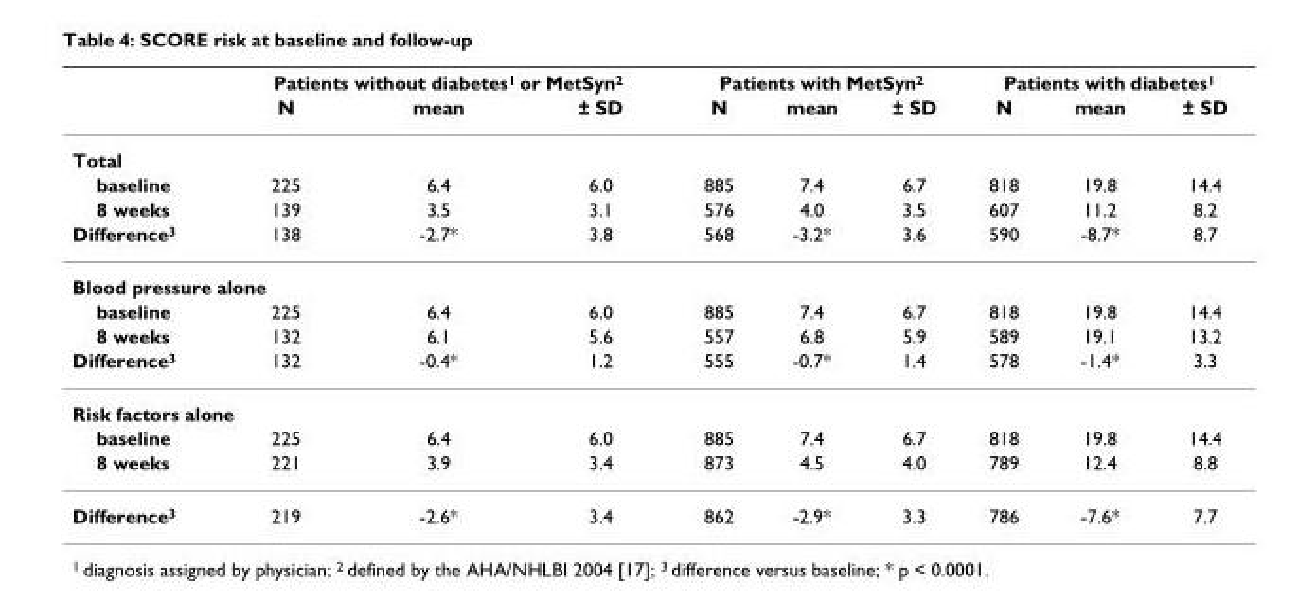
<table><thead><tr><td rowspan="2"></td><td colspan="3">Patients without diabetes<sup>1</sup> or MetSyn<sup>2</sup></td><td colspan="3">Patients with MetSyn<sup>2</sup></td><td colspan="3">Patients with diabetes<sup>1</sup></td></tr><tr><td>N</td><td>mean</td><td>± SD</td><td>N</td><td>mean</td><td>± SD</td><td>N</td><td>mean</td><td>± SD</td></tr></thead><tbody><tr><td colspan="10">Total</td></tr><tr><td>baseline</td><td>225</td><td>6.4</td><td>6.0</td><td>885</td><td>7.4</td><td>6.7</td><td>818</td><td>19.8</td><td>14.4</td></tr><tr><td>8 weeks</td><td>139</td><td>3.5</td><td>3.1</td><td>576</td><td>4.0</td><td>3.5</td><td>607</td><td>11.2</td><td>8.2</td></tr><tr><td>Difference<sup>3</sup></td><td>138</td><td>-2.7*</td><td>3.8</td><td>568</td><td>-3.2*</td><td>3.6</td><td>590</td><td>-8.7*</td><td>8.7</td></tr><tr><td colspan="10">Blood pressure alone</td></tr><tr><td>baseline</td><td>225</td><td>6.4</td><td>6.0</td><td>885</td><td>7.4</td><td>6.7</td><td>818</td><td>19.8</td><td>14.4</td></tr><tr><td>8 weeks</td><td>132</td><td>6.1</td><td>5.6</td><td>557</td><td>6.8</td><td>5.9</td><td>589</td><td>19.1</td><td>13.2</td></tr><tr><td>Difference<sup>3</sup></td><td>132</td><td>-0.4*</td><td>1.2</td><td>555</td><td>-0.7*</td><td>1.4</td><td>578</td><td>-1.4*</td><td>3.3</td></tr><tr><td colspan="10">Risk factors alone</td></tr><tr><td>baseline</td><td>225</td><td>6.4</td><td>6.0</td><td>885</td><td>7.4</td><td>6.7</td><td>818</td><td>19.8</td><td>14.4</td></tr><tr><td>8 weeks</td><td>221</td><td>3.9</td><td>3.4</td><td>873</td><td>4.5</td><td>4.0</td><td>789</td><td>12.4</td><td>8.8</td></tr><tr><td>Difference<sup>3</sup></td><td>219</td><td>-2.6*</td><td>3.4</td><td>862</td><td>-2.9*</td><td>3.3</td><td>786</td><td>-7.6*</td><td>7.7</td></tr></tbody></table>